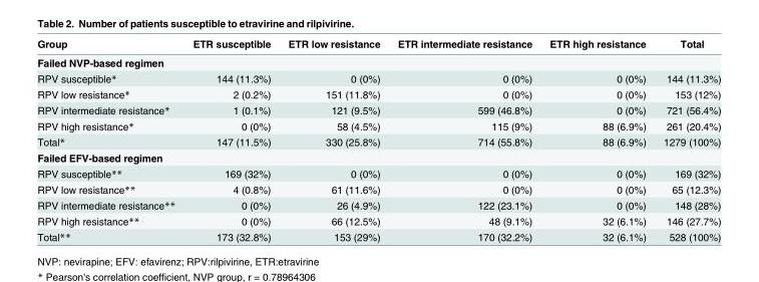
<table><thead><tr><td>Group</td><td>ETR susceptible</td><td>ETR low resistance</td><td>ETR intermediate resistance</td><td>ETR high resistance</td><td>Total</td></tr></thead><tbody><tr><td colspan="6">Failed NVP-based regimen</td></tr><tr><td>RPV susceptible*</td><td>144 (11.3%)</td><td>0 (0%)</td><td>0 (0%)</td><td>0 (0%)</td><td>144 (11.3%)</td></tr><tr><td>RPV low resistance*</td><td>2 (0.2%)</td><td>151 (11.8%)</td><td>0 (0%)</td><td>0 (0%)</td><td>153 (12%)</td></tr><tr><td>RPV intermediate resistance*</td><td>1 (0.1%)</td><td>121 (9.5%)</td><td>599 (46.8%)</td><td>0 (0%)</td><td>721 (56.4%)</td></tr><tr><td>RPV high resistance*</td><td>0 (0%)</td><td>58 (4.5%)</td><td>115 (9%)</td><td>88 (6.9%)</td><td>261 (20.4%)</td></tr><tr><td>Total*</td><td>147 (11.5%)</td><td>330 (25.8%)</td><td>714 (55.8%)</td><td>88 (6.9%)</td><td>1279 (100%)</td></tr><tr><td colspan="6">Failed EFV-based regimen</td></tr><tr><td>RPV susceptible**</td><td>169 (32%)</td><td>0 (0%)</td><td>0 (0%)</td><td>0 (0%)</td><td>169 (32%)</td></tr><tr><td>RPV low resistance**</td><td>4 (0.8%)</td><td>61 (11.6%)</td><td>0 (0%)</td><td>0 (0%)</td><td>65 (12.3%)</td></tr><tr><td>RPV intermediate resistance**</td><td>0 (0%)</td><td>26 (4.9%)</td><td>122 (23.1%)</td><td>0 (0%)</td><td>148 (28%)</td></tr><tr><td>RPV high resistance**</td><td>0 (0%)</td><td>66 (12.5%)</td><td>48 (9.1%)</td><td>32 (6.1%)</td><td>146 (27.7%)</td></tr><tr><td>Total**</td><td>173 (32.8%)</td><td>153 (29%)</td><td>170 (32.2%)</td><td>32 (6.1%)</td><td>528 (100%)</td></tr></tbody></table>